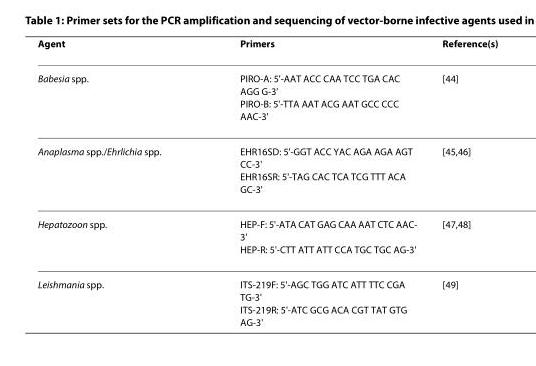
<table><thead><tr><td>Agent</td><td>Primers</td><td>Reference(s)</td></tr></thead><tbody><tr><td>Babesia spp.</td><td>PIRO-A: 5&#x27;-AAT ACC CAA TCC TGA CAC AGG G-3&#x27; PIRO-B: 5&#x27;-TTA AAT ACG AAT GCC CCC AAC-3&#x27;</td><td>[44]</td></tr><tr><td>Anaplasma spp./Ehrlichia spp.</td><td>EHR16SD: 5&#x27;-GGT ACC YAC AGA AGA AGT CC-3&#x27; EHR16SR: 5&#x27;-TAG CAC TCA TCG TTT ACA GC-3&#x27;</td><td>[45,46]</td></tr><tr><td>Hepatozoon spp.</td><td>HEP-F: 5&#x27;-ATA CAT GAG CAA AAT CTC AAC- 3&#x27; HEP-R: 5&#x27;-CTT ATT ATT CCA TGC TGC AG-3&#x27;</td><td>[47,48]</td></tr><tr><td>Leishmania spp.</td><td>ITS-219F: 5&#x27;-AGC TGG ATC ATT TTC CGA TG-3&#x27; ITS-219R: 5&#x27;-ATC GCG ACA CGT TAT GTG AG-3&#x27;</td><td>[49]</td></tr></tbody></table>